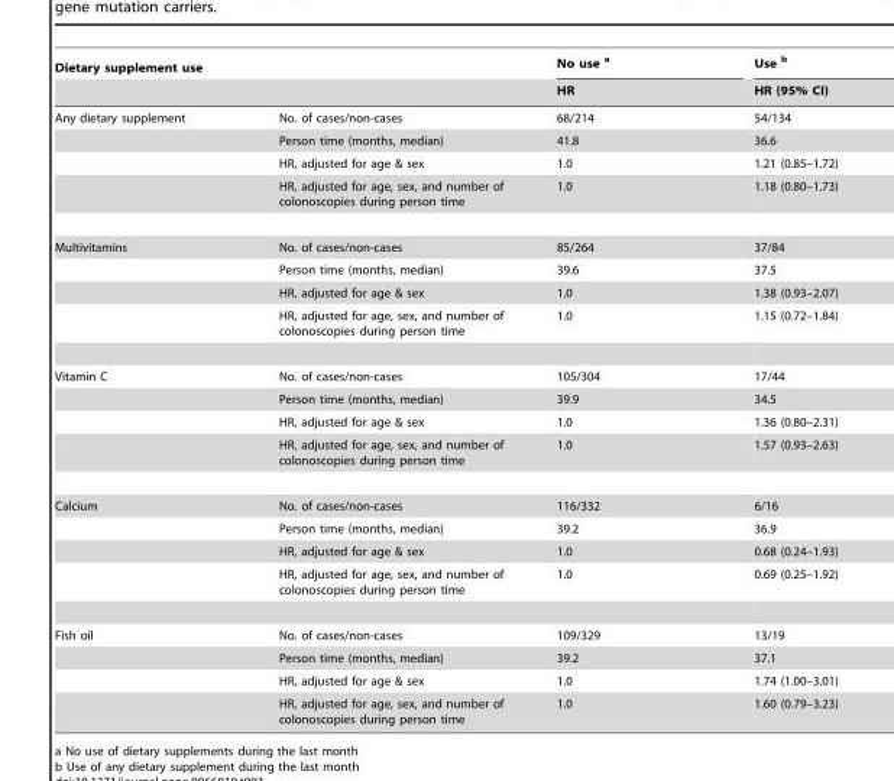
<table><thead><tr><td rowspan="2">Dietary supplement use</td><td rowspan="2"></td><td rowspan="2">No use <sup>a</sup> HR</td><td rowspan="2">Use <sup>b</sup> HR (95% CI)</td></tr><tr></tr></thead><tbody><tr><td rowspan="4">Any dietary supplement</td><td>No. of cases/non-cases</td><td>68/214</td><td>54/134</td></tr><tr><td>Person time (months, median)</td><td>41.8</td><td>36.6</td></tr><tr><td>HR, adjusted for age &amp; sex</td><td>1.0</td><td>1.21 (0.85–1.72)</td></tr><tr><td>HR, adjusted for age, sex, and number of colonoscopies during person time</td><td>1.0</td><td>1.18 (0.80–1.73)</td></tr><tr><td rowspan="4">Multivitamins</td><td>No. of cases/non-cases</td><td>85/264</td><td>37/84</td></tr><tr><td>Person time (months, median)</td><td>39.6</td><td>37.5</td></tr><tr><td>HR, adjusted for age &amp; sex</td><td>1.0</td><td>1.38 (0.93–2.07)</td></tr><tr><td>HR, adjusted for age, sex, and number of colonoscopies during person time</td><td>1.0</td><td>1.15 (0.72–1.84)</td></tr><tr><td rowspan="4">Vitamin C</td><td>No. of cases/non-cases</td><td>105/304</td><td>17/44</td></tr><tr><td>Person time (months, median)</td><td>39.9</td><td>34.5</td></tr><tr><td>HR, adjusted for age &amp; sex</td><td>1.0</td><td>1.36 (0.80–2.31)</td></tr><tr><td>HR, adjusted for age, sex, and number of colonoscopies during person time</td><td>1.0</td><td>1.57 (0.93–2.63)</td></tr><tr><td rowspan="4">Calcium</td><td>No. of cases/non-cases</td><td>116/332</td><td>6/16</td></tr><tr><td>Person time (months, median)</td><td>39.2</td><td>36.9</td></tr><tr><td>HR, adjusted for age &amp; sex</td><td>1.0</td><td>0.68 (0.24–1.93)</td></tr><tr><td>HR, adjusted for age, sex, and number of colonoscopies during person time</td><td>1.0</td><td>0.69 (0.25–1.92)</td></tr><tr><td rowspan="4">Fish oil</td><td>No. of cases/non-cases</td><td>109/329</td><td>13/19</td></tr><tr><td>Person time (months, median)</td><td>39.2</td><td>37.1</td></tr><tr><td>HR, adjusted for age &amp; sex</td><td>1.0</td><td>1.74 (1.00–3.01)</td></tr><tr><td>HR, adjusted for age, sex, and number of colonoscopies during person time</td><td>1.0</td><td>1.60 (0.79–3.23)</td></tr></tbody></table>